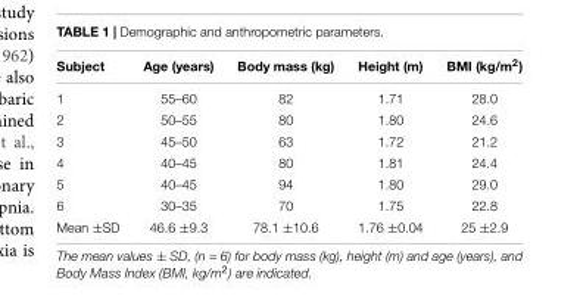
<table><thead><tr><td>Subject</td><td>Age (years)</td><td>Body mass (kg)</td><td>Height (m)</td><td>BMI (kg/m<sup>2</sup>)</td></tr></thead><tbody><tr><td>1</td><td>55–60</td><td>82</td><td>1.71</td><td>28.0</td></tr><tr><td>2</td><td>50–55</td><td>80</td><td>1.80</td><td>24.6</td></tr><tr><td>3</td><td>45–50</td><td>63</td><td>1.72</td><td>21.2</td></tr><tr><td>4</td><td>40–45</td><td>80</td><td>1.81</td><td>24.4</td></tr><tr><td>5</td><td>40–45</td><td>94</td><td>1.80</td><td>29.0</td></tr><tr><td>6</td><td>30–35</td><td>70</td><td>1.75</td><td>22.8</td></tr><tr><td>Mean ±SD</td><td>46.6 ±9.3</td><td>78.1 ±10.6</td><td>1.76 ±0.04</td><td>25 ±2.9</td></tr></tbody></table>